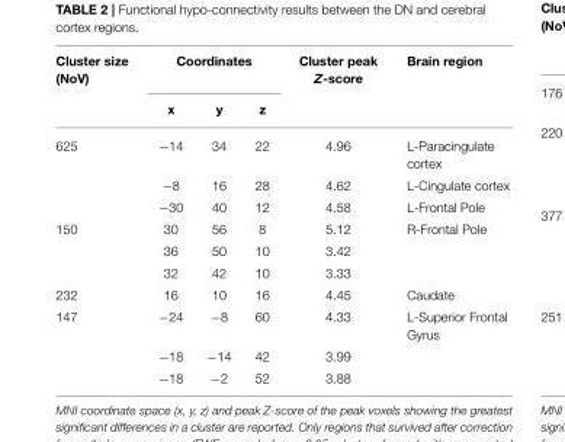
<table><thead><tr><td rowspan="2">Cluster size (NoV)</td><td colspan="3">Coordinates</td><td rowspan="2">Cluster peak Z-score</td><td rowspan="2">Brain region</td></tr><tr><td>x</td><td>y</td><td>z</td></tr></thead><tbody><tr><td rowspan="3">625</td><td>−14</td><td>34</td><td>22</td><td>4.96</td><td>L-Paracingulate cortex</td></tr><tr><td>−8</td><td>16</td><td>28</td><td>4.62</td><td>L-Cingulate cortex</td></tr><tr><td>−30</td><td>40</td><td>12</td><td>4.58</td><td>L-Frontal Pole</td></tr><tr><td rowspan="3">150</td><td>30</td><td>56</td><td>8</td><td>5.12</td><td>R-Frontal Pole</td></tr><tr><td>36</td><td>50</td><td>10</td><td>3.42</td><td></td></tr><tr><td>32</td><td>42</td><td>10</td><td>3.33</td><td></td></tr><tr><td>232</td><td>16</td><td>10</td><td>16</td><td>4.45</td><td>Caudate</td></tr><tr><td rowspan="3">147</td><td>−24</td><td>−8</td><td>60</td><td>4.33</td><td>L-Superior Frontal Gyrus</td></tr><tr><td>−18</td><td>−14</td><td>42</td><td>3.99</td><td></td></tr><tr><td>−18</td><td>−2</td><td>52</td><td>3.88</td><td></td></tr></tbody></table>